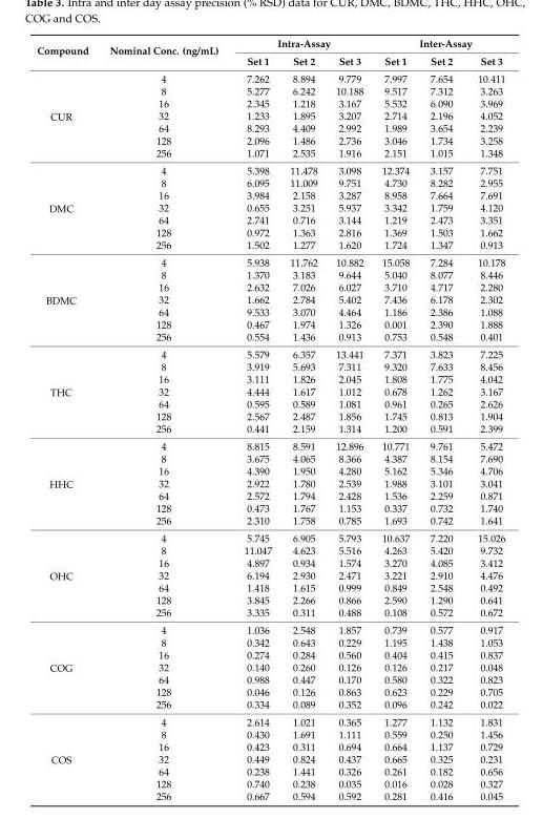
<table><thead><tr><td rowspan="2">Compound</td><td rowspan="2">Nominal Conc. (ng/mL)</td><td colspan="3">Intra-Assay</td><td colspan="3">Inter-Assay</td></tr><tr><td>Set 1</td><td>Set 2</td><td>Set 3</td><td>Set 1</td><td>Set 2</td><td>Set 3</td></tr></thead><tbody><tr><td rowspan="7">CUR</td><td>4</td><td>7.262</td><td>8.894</td><td>9.779</td><td>7.997</td><td>7.654</td><td>10.411</td></tr><tr><td>8</td><td>5.277</td><td>6.242</td><td>10.188</td><td>9.517</td><td>7.312</td><td>3.263</td></tr><tr><td>16</td><td>2.345</td><td>1.218</td><td>3.167</td><td>5.532</td><td>6.090</td><td>3.969</td></tr><tr><td>32</td><td>1.233</td><td>1.895</td><td>3.207</td><td>2.714</td><td>2.196</td><td>4.052</td></tr><tr><td>64</td><td>8.293</td><td>4.409</td><td>2.992</td><td>1.989</td><td>3.654</td><td>2.239</td></tr><tr><td>128</td><td>2.096</td><td>1.486</td><td>2.736</td><td>3.046</td><td>1.734</td><td>3.258</td></tr><tr><td>256</td><td>1.071</td><td>2.535</td><td>1.916</td><td>2.151</td><td>1.015</td><td>1.348</td></tr><tr><td rowspan="7">DMC</td><td>4</td><td>5.398</td><td>11.478</td><td>3.098</td><td>12.374</td><td>3.157</td><td>7.751</td></tr><tr><td>8</td><td>6.095</td><td>11.009</td><td>9.751</td><td>4.730</td><td>8.282</td><td>2.955</td></tr><tr><td>16</td><td>3.984</td><td>2.158</td><td>3.287</td><td>8.958</td><td>7.664</td><td>7.691</td></tr><tr><td>32</td><td>0.655</td><td>3.251</td><td>5.937</td><td>3.342</td><td>1.759</td><td>4.120</td></tr><tr><td>64</td><td>2.741</td><td>0.716</td><td>3.144</td><td>1.219</td><td>2.473</td><td>3.351</td></tr><tr><td>128</td><td>0.972</td><td>1.363</td><td>2.816</td><td>1.369</td><td>1.503</td><td>1.662</td></tr><tr><td>256</td><td>1.502</td><td>1.277</td><td>1.620</td><td>1.724</td><td>1.347</td><td>0.913</td></tr><tr><td rowspan="7">BDMC</td><td>4</td><td>5.938</td><td>11.762</td><td>10.882</td><td>15.058</td><td>7.284</td><td>10.178</td></tr><tr><td>8</td><td>1.370</td><td>3.183</td><td>9.644</td><td>5.040</td><td>8.077</td><td>8.446</td></tr><tr><td>16</td><td>2.632</td><td>7.026</td><td>6.027</td><td>3.710</td><td>4.717</td><td>2.280</td></tr><tr><td>32</td><td>1.662</td><td>2.784</td><td>5.402</td><td>7.436</td><td>6.178</td><td>2.302</td></tr><tr><td>64</td><td>9.533</td><td>3.070</td><td>4.464</td><td>1.186</td><td>2.386</td><td>1.088</td></tr><tr><td>128</td><td>0.467</td><td>1.974</td><td>1.326</td><td>0.001</td><td>2.390</td><td>1.888</td></tr><tr><td>256</td><td>0.554</td><td>1.436</td><td>0.913</td><td>0.753</td><td>0.548</td><td>0.401</td></tr><tr><td rowspan="7">THC</td><td>4</td><td>5.579</td><td>6.357</td><td>13.441</td><td>7.371</td><td>3.823</td><td>7.225</td></tr><tr><td>8</td><td>3.919</td><td>5.693</td><td>7.311</td><td>9.320</td><td>7.633</td><td>8.456</td></tr><tr><td>16</td><td>3.111</td><td>1.826</td><td>2.045</td><td>1.808</td><td>1.775</td><td>4.042</td></tr><tr><td>32</td><td>4.444</td><td>1.617</td><td>1.012</td><td>0.678</td><td>1.262</td><td>3.167</td></tr><tr><td>64</td><td>0.595</td><td>0.589</td><td>1.081</td><td>0.961</td><td>0.265</td><td>2.626</td></tr><tr><td>128</td><td>2.567</td><td>2.487</td><td>1.856</td><td>1.745</td><td>0.813</td><td>1.904</td></tr><tr><td>256</td><td>0.441</td><td>2.159</td><td>1.314</td><td>1.200</td><td>0.591</td><td>2.399</td></tr><tr><td rowspan="7">HHC</td><td>4</td><td>8.815</td><td>8.591</td><td>12.896</td><td>10.771</td><td>9.761</td><td>5.472</td></tr><tr><td>8</td><td>3.675</td><td>4.065</td><td>8.366</td><td>4.387</td><td>8.154</td><td>7.690</td></tr><tr><td>16</td><td>4.390</td><td>1.950</td><td>4.280</td><td>5.162</td><td>5.346</td><td>4.706</td></tr><tr><td>32</td><td>2.922</td><td>1.780</td><td>2.539</td><td>1.988</td><td>3.101</td><td>3.041</td></tr><tr><td>64</td><td>2.572</td><td>1.794</td><td>2.428</td><td>1.536</td><td>2.259</td><td>0.871</td></tr><tr><td>128</td><td>0.473</td><td>1.767</td><td>1.153</td><td>0.337</td><td>0.732</td><td>1.740</td></tr><tr><td>256</td><td>2.310</td><td>1.758</td><td>0.785</td><td>1.693</td><td>0.742</td><td>1.641</td></tr><tr><td rowspan="7">OHC</td><td>4</td><td>5.745</td><td>6.905</td><td>5.793</td><td>10.637</td><td>7.220</td><td>15.026</td></tr><tr><td>8</td><td>11.047</td><td>4.623</td><td>5.516</td><td>4.263</td><td>5.420</td><td>9.732</td></tr><tr><td>16</td><td>4.897</td><td>0.934</td><td>1.574</td><td>3.270</td><td>4.085</td><td>3.412</td></tr><tr><td>32</td><td>6.194</td><td>2.930</td><td>2.471</td><td>3.221</td><td>2.910</td><td>4.476</td></tr><tr><td>64</td><td>1.418</td><td>1.615</td><td>0.999</td><td>0.849</td><td>2.548</td><td>0.492</td></tr><tr><td>128</td><td>3.845</td><td>2.266</td><td>0.866</td><td>2.590</td><td>1.290</td><td>0.641</td></tr><tr><td>256</td><td>3.335</td><td>0.311</td><td>0.488</td><td>0.108</td><td>0.572</td><td>0.672</td></tr><tr><td rowspan="7">COG</td><td>4</td><td>1.036</td><td>2.548</td><td>1.857</td><td>0.739</td><td>0.577</td><td>0.917</td></tr><tr><td>8</td><td>0.342</td><td>0.643</td><td>0.229</td><td>1.195</td><td>1.438</td><td>1.053</td></tr><tr><td>16</td><td>0.274</td><td>0.284</td><td>0.560</td><td>0.404</td><td>0.415</td><td>0.837</td></tr><tr><td>32</td><td>0.140</td><td>0.260</td><td>0.126</td><td>0.126</td><td>0.217</td><td>0.048</td></tr><tr><td>64</td><td>0.988</td><td>0.447</td><td>0.170</td><td>0.580</td><td>0.322</td><td>0.823</td></tr><tr><td>128</td><td>0.046</td><td>0.126</td><td>0.863</td><td>0.623</td><td>0.229</td><td>0.705</td></tr><tr><td>256</td><td>0.334</td><td>0.089</td><td>0.352</td><td>0.096</td><td>0.242</td><td>0.022</td></tr><tr><td rowspan="7">COS</td><td>4</td><td>2.614</td><td>1.021</td><td>0.365</td><td>1.277</td><td>1.132</td><td>1.831</td></tr><tr><td>8</td><td>0.430</td><td>1.691</td><td>1.111</td><td>0.559</td><td>0.250</td><td>1.456</td></tr><tr><td>16</td><td>0.423</td><td>0.311</td><td>0.694</td><td>0.664</td><td>1.137</td><td>0.729</td></tr><tr><td>32</td><td>0.449</td><td>0.824</td><td>0.437</td><td>0.665</td><td>0.325</td><td>0.231</td></tr><tr><td>64</td><td>0.238</td><td>1.441</td><td>0.326</td><td>0.261</td><td>0.182</td><td>0.656</td></tr><tr><td>128</td><td>0.740</td><td>0.238</td><td>0.035</td><td>0.016</td><td>0.028</td><td>0.327</td></tr><tr><td>256</td><td>0.667</td><td>0.594</td><td>0.592</td><td>0.281</td><td>0.416</td><td>0.045</td></tr></tbody></table>